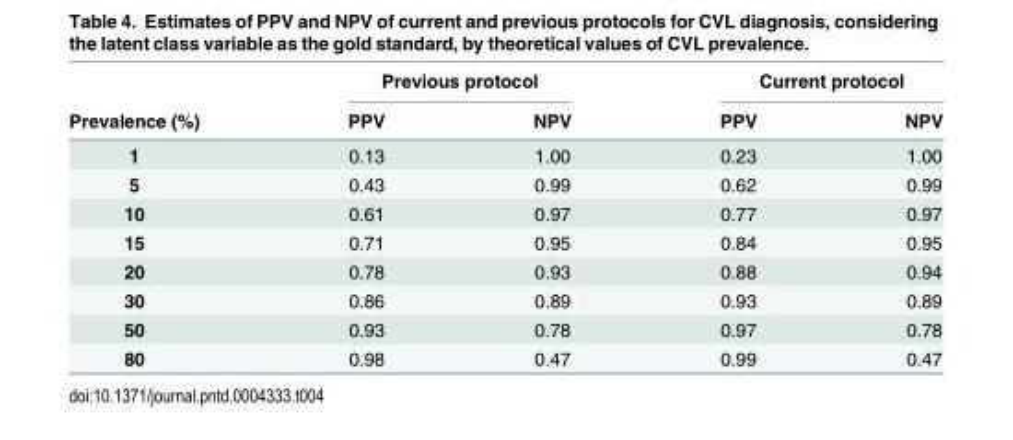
<table><thead><tr><td rowspan="2">Prevalence (%)</td><td colspan="2">Previous protocol</td><td colspan="2">Current protocol</td></tr><tr><td>PPV</td><td>NPV</td><td>PPV</td><td>NPV</td></tr></thead><tbody><tr><td>1</td><td>0.13</td><td>1.00</td><td>0.23</td><td>1.00</td></tr><tr><td>5</td><td>0.43</td><td>0.99</td><td>0.62</td><td>0.99</td></tr><tr><td>10</td><td>0.61</td><td>0.97</td><td>0.77</td><td>0.97</td></tr><tr><td>15</td><td>0.71</td><td>0.95</td><td>0.84</td><td>0.95</td></tr><tr><td>20</td><td>0.78</td><td>0.93</td><td>0.88</td><td>0.94</td></tr><tr><td>30</td><td>0.86</td><td>0.89</td><td>0.93</td><td>0.89</td></tr><tr><td>50</td><td>0.93</td><td>0.78</td><td>0.97</td><td>0.78</td></tr><tr><td>80</td><td>0.98</td><td>0.47</td><td>0.99</td><td>0.47</td></tr></tbody></table>